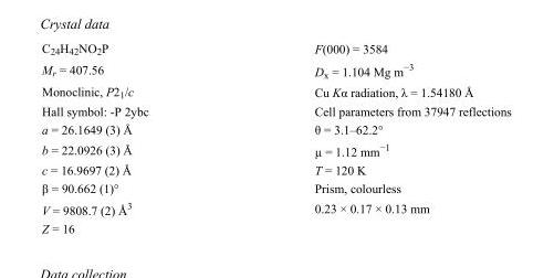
<table><tbody><tr><td>C<sub>24</sub>H<sub>42</sub>NO<sub>2</sub>P</td><td>F(000) = 3584</td></tr><tr><td>M<sub>r</sub> = 407.56</td><td>D<sub>x</sub> = 1.104 Mg m<sup>−3</sup></td></tr><tr><td>Monoclinic, P2<sub>1</sub>/c</td><td>Cu Kα radiation, λ = 1.54180 Å</td></tr><tr><td>Hall symbol: -P 2ybc</td><td>Cell parameters from 37947 reflections</td></tr><tr><td>a = 26.1649 (3) Å</td><td>θ = 3.1–62.2°</td></tr><tr><td>b = 22.0926 (3) Å</td><td>µ = 1.12 mm<sup>−1</sup></td></tr><tr><td>c = 16.9697 (2) Å</td><td>T = 120 K</td></tr><tr><td>β = 90.662 (1)°</td><td>Prism, colourless</td></tr><tr><td>V = 9808.7 (2) Å<sup>3</sup></td><td>0.23 × 0.17 × 0.13 mm</td></tr><tr><td>Z = 16</td><td></td></tr></tbody></table>